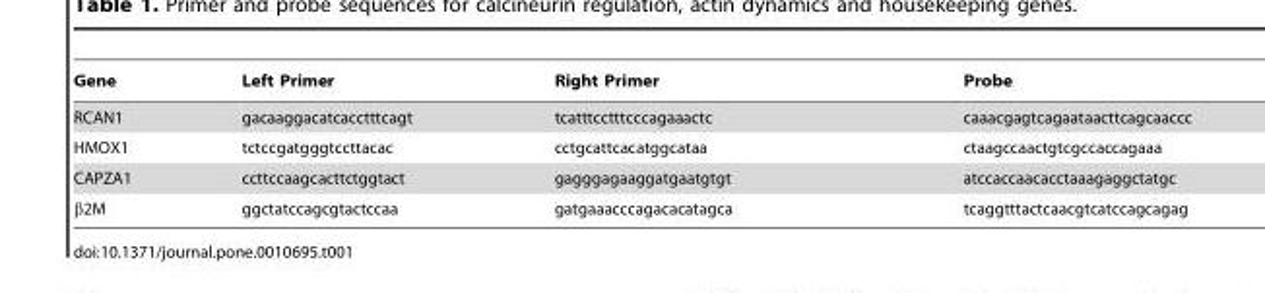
<table><thead><tr><td>Gene</td><td>Left Primer</td><td>Right Primer</td><td>Probe</td></tr></thead><tbody><tr><td>RCAN1</td><td>gacaaggacatcacctttcagt</td><td>tcatttcctttcccagaaactc</td><td>caaacgagtcagaataacttcagcaaccc</td></tr><tr><td>HMOX1</td><td>tctccgatgggtccttacac</td><td>cctgcattcacatggcataa</td><td>ctaagccaactgtcgccaccagaaa</td></tr><tr><td>CAPZA1</td><td>ccttccaagcacttctggtact</td><td>gagggagaaggatgaatgtgt</td><td>atccaccaacacctaaagaggctatgc</td></tr><tr><td>β2M</td><td>ggctatccagcgtactccaa</td><td>gatgaaacccagacacatagca</td><td>tcaggtttactcaacgtcatccagcagag</td></tr></tbody></table>